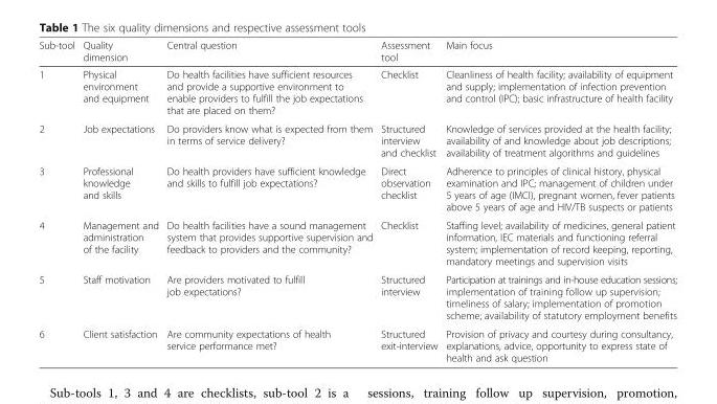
<table><thead><tr><td>Sub-tool</td><td>Quality dimension</td><td>Central question</td><td>Assessment tool</td><td>Main focus</td></tr></thead><tbody><tr><td>1</td><td>Physical environment and equipment</td><td>Do health facilities have sufficient resources and provide a supportive environment to enable providers to fulfill the job expectations that are placed on them?</td><td>Checklist</td><td>Cleanliness of health facility; availability of equipment and supply; implementation of infection prevention and control (IPC); basic infrastructure of health facility</td></tr><tr><td>2</td><td>Job expectations</td><td>Do providers know what is expected from them in terms of service delivery?</td><td>Structured interview and checklist</td><td>Knowledge of services provided at the health facility; availability of and knowledge about job descriptions; availability of treatment algorithms and guidelines</td></tr><tr><td>3</td><td>Professional knowledge and skills</td><td>Do health providers have sufficient knowledge and skills to fulfill job expectations?</td><td>Direct observation checklist</td><td>Adherence to principles of clinical history, physical examination and IPC; management of children under 5 years of age (IMCI), pregnant women, fever patients above 5 years of age and HIV/TB suspects or patients</td></tr><tr><td>4</td><td>Management and administration of the facility</td><td>Do health facilities have a sound management system that provides supportive supervision and feedback to providers and the community?</td><td>Checklist</td><td>Staffing level; availability of medicines, general patient information, IEC materials and functioning referral system; implementation of record keeping, reporting, mandatory meetings and supervision visits</td></tr><tr><td>5</td><td>Staff motivation</td><td>Are providers motivated to fulfill job expectations?</td><td>Structured interview</td><td>Participation at trainings and in-house education sessions; implementation of training follow up supervision; timeliness of salary; implementation of promotion scheme; availability of statutory employment benefits</td></tr><tr><td>6</td><td>Client satisfaction</td><td>Are community expectations of health service performance met?</td><td>Structured exit-interview</td><td>Provision of privacy and courtesy during consultancy, explanations, advice, opportunity to express state of health and ask question</td></tr></tbody></table>